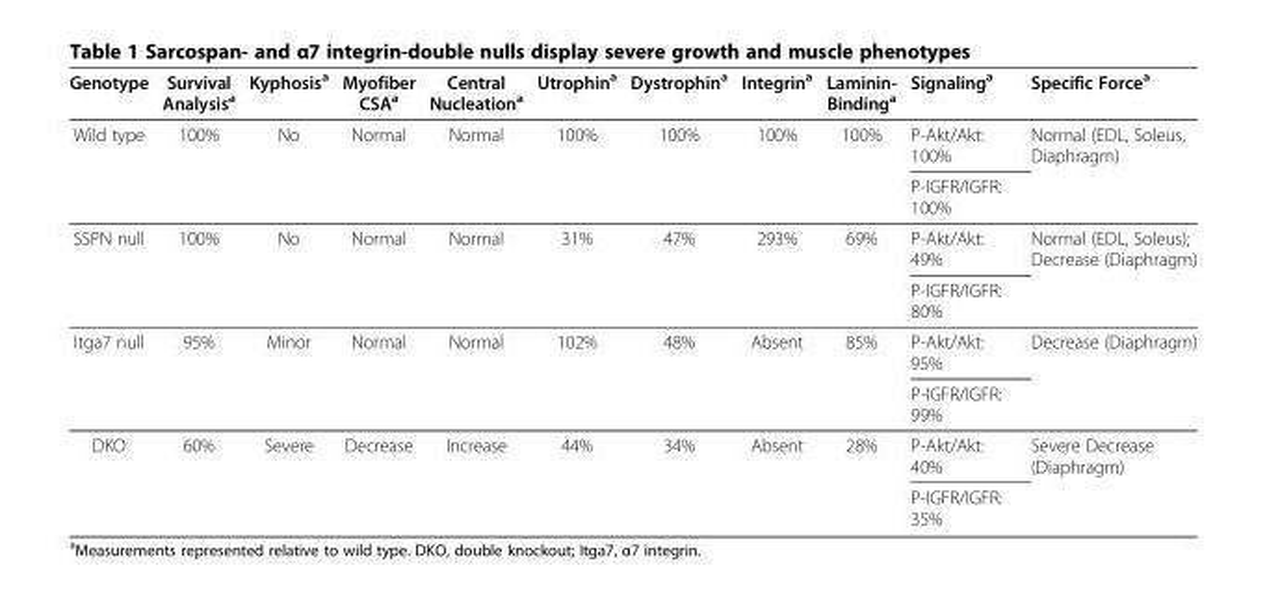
<table><thead><tr><td>Genotype</td><td>Survival Analysis<sup>a</sup></td><td>Kyphosis<sup>a</sup></td><td>Myofiber CSA<sup>a</sup></td><td>Central Nucleation<sup>a</sup></td><td>Utrophin<sup>a</sup></td><td>Dystrophin<sup>a</sup></td><td>Integrin<sup>a</sup></td><td>Laminin- Binding<sup>a</sup></td><td>Signaling<sup>a</sup></td><td>Specific Force<sup>a</sup></td></tr></thead><tbody><tr><td rowspan="2">Wild type</td><td rowspan="2">100%</td><td rowspan="2">No</td><td rowspan="2">Normal</td><td rowspan="2">Normal</td><td rowspan="2">100%</td><td rowspan="2">100%</td><td rowspan="2">100%</td><td rowspan="2">100%</td><td>P-Akt/Akt: 100%</td><td rowspan="2">Normal (EDL, Soleus, Diaphragm)</td></tr><tr><td>P-IGFR/IGFR: 100%</td></tr><tr><td rowspan="2">SSPN null</td><td rowspan="2">100%</td><td rowspan="2">No</td><td rowspan="2">Normal</td><td rowspan="2">Normal</td><td rowspan="2">31%</td><td rowspan="2">47%</td><td rowspan="2">293%</td><td rowspan="2">69%</td><td>P-Akt/Akt: 49%</td><td rowspan="2">Normal (EDL, Soleus); Decrease (Diaphragm)</td></tr><tr><td>P-IGFR/IGFR: 80%</td></tr><tr><td rowspan="2">Itga7 null</td><td rowspan="2">95%</td><td rowspan="2">Minor</td><td rowspan="2">Normal</td><td rowspan="2">Normal</td><td rowspan="2">102%</td><td rowspan="2">48%</td><td rowspan="2">Absent</td><td rowspan="2">85%</td><td>P-Akt/Akt: 95%</td><td rowspan="2">Decrease (Diaphragm)</td></tr><tr><td>P-IGFR/IGFR: 99%</td></tr><tr><td rowspan="2">DKO</td><td rowspan="2">60%</td><td rowspan="2">Severe</td><td rowspan="2">Decrease</td><td rowspan="2">Increase</td><td rowspan="2">44%</td><td rowspan="2">34%</td><td rowspan="2">Absent</td><td rowspan="2">28%</td><td>P-Akt/Akt: 40%</td><td rowspan="2">Severe Decrease (Diaphragm)</td></tr><tr><td>P-IGFR/IGFR: 35%</td></tr></tbody></table>